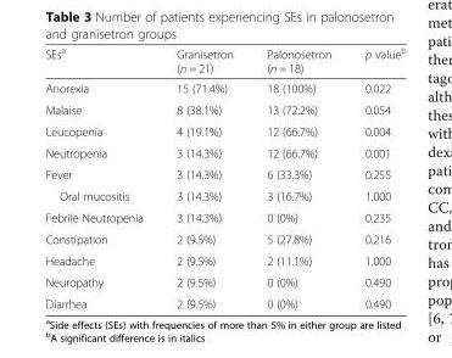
<table><thead><tr><td>SEs<sup>a</sup></td><td>Granisetron (n = 21)</td><td>Palonosetron (n = 18)</td><td>p value<sup>b</sup></td></tr></thead><tbody><tr><td>Anorexia</td><td>15 (71.4%)</td><td>18 (100%)</td><td>0.022</td></tr><tr><td>Malaise</td><td>8 (38.1%)</td><td>13 (72.2%)</td><td>0.054</td></tr><tr><td>Leucopenia</td><td>4 (19.1%)</td><td>12 (66.7%)</td><td>0.004</td></tr><tr><td>Neutropenia</td><td>3 (14.3%)</td><td>12 (66.7%)</td><td>0.001</td></tr><tr><td>Fever</td><td>3 (14.3%)</td><td>6 (33.3%)</td><td>0.255</td></tr><tr><td>Oral mucositis</td><td>3 (14.3%)</td><td>3 (16.7%)</td><td>1.000</td></tr><tr><td>Febrile Neutropenia</td><td>3 (14.3%)</td><td>0 (0%)</td><td>0.235</td></tr><tr><td>Constipation</td><td>2 (9.5%)</td><td>5 (27.8%)</td><td>0.216</td></tr><tr><td>Headache</td><td>2 (9.5%)</td><td>2 (11.1%)</td><td>1.000</td></tr><tr><td>Neuropathy</td><td>2 (9.5%)</td><td>0 (0%)</td><td>0.490</td></tr><tr><td>Diarrhea</td><td>2 (9.5%)</td><td>0 (0%)</td><td>0.490</td></tr></tbody></table>